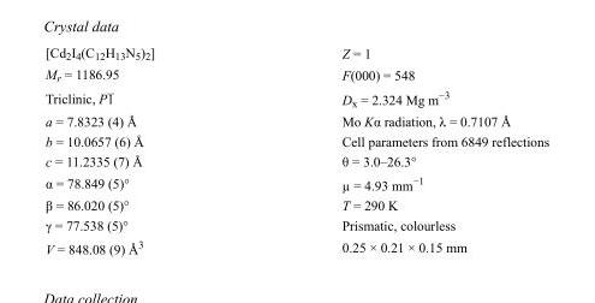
<table><tbody><tr><td>[Cd<sub>2</sub>I<sub>4</sub>(C<sub>12</sub>H<sub>13</sub>N<sub>5</sub>)<sub>2</sub>]</td><td>Z = 1</td></tr><tr><td>M<sub>r</sub> = 1186.95</td><td>F(000) = 548</td></tr><tr><td>Triclinic, P1</td><td>D<sub>x</sub> = 2.324 Mg m<sup>−3</sup></td></tr><tr><td>a = 7.8323 (4) Å</td><td>Mo Kα radiation, λ = 0.7107 Å</td></tr><tr><td>b = 10.0657 (6) Å</td><td>Cell parameters from 6849 reflections</td></tr><tr><td>c = 11.2335 (7) Å</td><td>θ = 3.0–26.3°</td></tr><tr><td>α = 78.849 (5)°</td><td>µ = 4.93 mm<sup>−1</sup></td></tr><tr><td>β = 86.020 (5)°</td><td>T = 290 K</td></tr><tr><td>γ = 77.538 (5)°</td><td>Prismatic, colourless</td></tr><tr><td>V = 848.08 (9) Å<sup>3</sup></td><td>0.25 × 0.21 × 0.15 mm</td></tr></tbody></table>